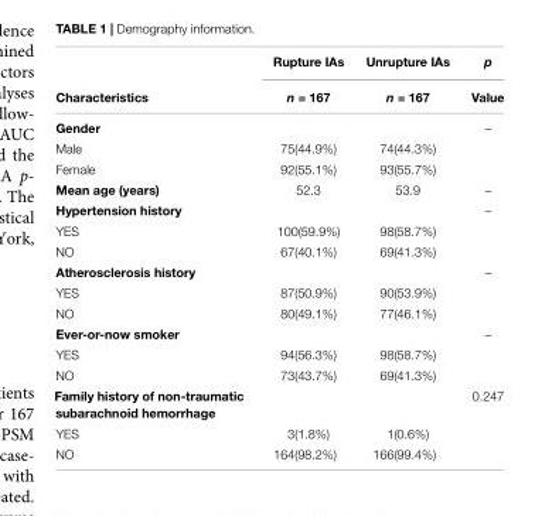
<table><thead><tr><td rowspan="2">Characteristics</td><td rowspan="2">Rupture IAs n = 167</td><td rowspan="2">Unrupture IAs n = 167</td><td rowspan="2">p Value</td></tr><tr></tr></thead><tbody><tr><td>Gender</td><td></td><td></td><td>–</td></tr><tr><td>Male</td><td>75(44.9%)</td><td>74(44.3%)</td><td></td></tr><tr><td>Female</td><td>92(55.1%)</td><td>93(55.7%)</td><td></td></tr><tr><td>Mean age (years)</td><td>52.3</td><td>53.9</td><td>–</td></tr><tr><td>Hypertension history</td><td></td><td></td><td>–</td></tr><tr><td>YES</td><td>100(59.9%)</td><td>98(58.7%)</td><td></td></tr><tr><td>NO</td><td>67(40.1%)</td><td>69(41.3%)</td><td></td></tr><tr><td>Atherosclerosis history</td><td></td><td></td><td>–</td></tr><tr><td>YES</td><td>87(50.9%)</td><td>90(53.9%)</td><td></td></tr><tr><td>NO</td><td>80(49.1%)</td><td>77(46.1%)</td><td></td></tr><tr><td>Ever-or-now smoker</td><td></td><td></td><td>–</td></tr><tr><td>YES</td><td>94(56.3%)</td><td>98(58.7%)</td><td></td></tr><tr><td>NO</td><td>73(43.7%)</td><td>69(41.3%)</td><td></td></tr><tr><td>Family history of non-traumatic subarachnoid hemorrhage</td><td></td><td></td><td>0.247</td></tr><tr><td>YES</td><td>3(1.8%)</td><td>1(0.6%)</td><td></td></tr><tr><td>NO</td><td>164(98.2%)</td><td>166(99.4%)</td><td></td></tr></tbody></table>